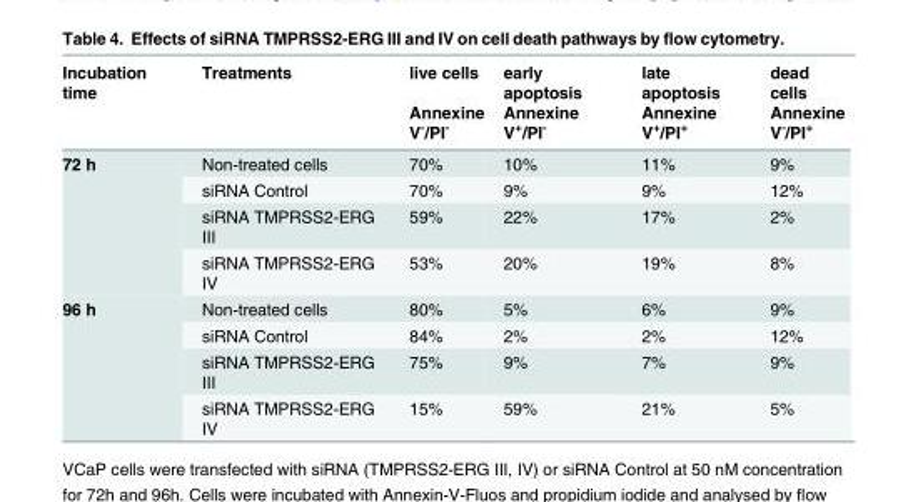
<table><thead><tr><td rowspan="2">Incubation time</td><td rowspan="2">Treatments</td><td rowspan="2">live cells Annexine V<sup>-</sup>/PI<sup>-</sup></td><td rowspan="2">early apoptosis Annexine V<sup>+</sup>/PI<sup>-</sup></td><td rowspan="2">late apoptosis Annexine V<sup>+</sup>/PI<sup>+</sup></td><td rowspan="2">dead cells Annexine V<sup>-</sup>/PI<sup>+</sup></td></tr><tr></tr></thead><tbody><tr><td rowspan="4">72 h</td><td>Non-treated cells</td><td>70%</td><td>10%</td><td>11%</td><td>9%</td></tr><tr><td>siRNA Control</td><td>70%</td><td>9%</td><td>9%</td><td>12%</td></tr><tr><td>siRNA TMPRSS2-ERG III</td><td>59%</td><td>22%</td><td>17%</td><td>2%</td></tr><tr><td>siRNA TMPRSS2-ERG IV</td><td>53%</td><td>20%</td><td>19%</td><td>8%</td></tr><tr><td rowspan="4">96 h</td><td>Non-treated cells</td><td>80%</td><td>5%</td><td>6%</td><td>9%</td></tr><tr><td>siRNA Control</td><td>84%</td><td>2%</td><td>2%</td><td>12%</td></tr><tr><td>siRNA TMPRSS2-ERG III</td><td>75%</td><td>9%</td><td>7%</td><td>9%</td></tr><tr><td>siRNA TMPRSS2-ERG IV</td><td>15%</td><td>59%</td><td>21%</td><td>5%</td></tr></tbody></table>